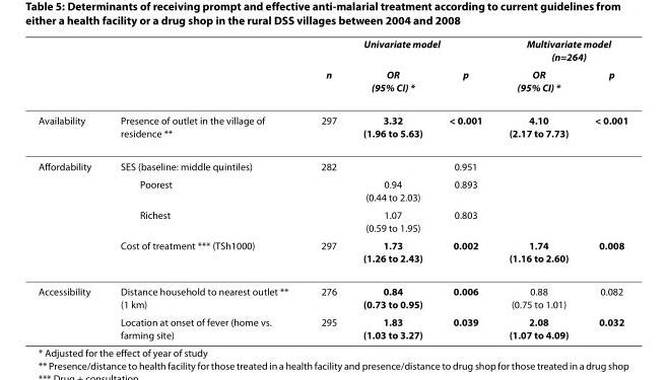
<table><thead><tr><td rowspan="2"></td><td rowspan="2"></td><td colspan="3">Univariate model</td><td colspan="2">Multivariate model (n=264)</td></tr><tr><td>n</td><td>OR (95% CI) *</td><td>p</td><td>OR (95% CI) *</td><td>p</td></tr></thead><tbody><tr><td>Availability</td><td>Presence of outlet in the village of residence **</td><td>297</td><td>3.32 (1.96 to 5.63)</td><td>&lt; 0.001</td><td>4.10 (2.17 to 7.73)</td><td>&lt; 0.001</td></tr><tr><td rowspan="4">Affordability</td><td>SES (baseline: middle quintiles)</td><td>282</td><td></td><td>0.951</td><td></td><td></td></tr><tr><td>Poorest</td><td></td><td>0.94 (0.44 to 2.03)</td><td>0.893</td><td></td><td></td></tr><tr><td>Richest</td><td></td><td>1.07 (0.59 to 1.95)</td><td>0.803</td><td></td><td></td></tr><tr><td>Cost of treatment *** (TSh1000)</td><td>297</td><td>1.73 (1.26 to 2.43)</td><td>0.002</td><td>1.74 (1.16 to 2.60)</td><td>0.008</td></tr><tr><td rowspan="2">Accessibility</td><td>Distance household to nearest outlet ** (1 km)</td><td>276</td><td>0.84 (0.73 to 0.95)</td><td>0.006</td><td>0.88 (0.75 to 1.01)</td><td>0.082</td></tr><tr><td>Location at onset of fever (home vs. farming site)</td><td>295</td><td>1.83 (1.03 to 3.27)</td><td>0.039</td><td>2.08 (1.07 to 4.09)</td><td>0.032</td></tr></tbody></table>